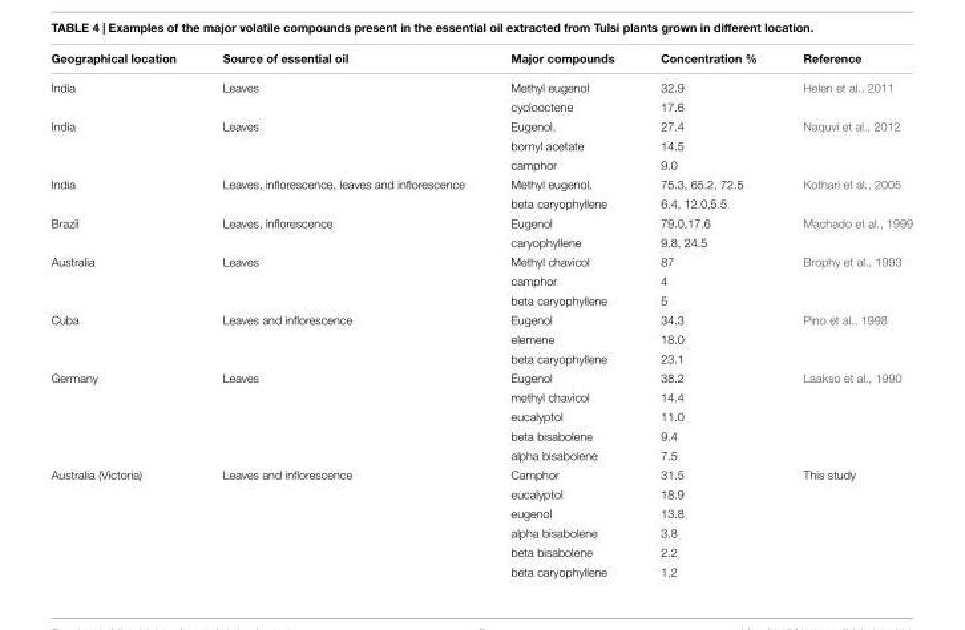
<table><thead><tr><td>Geographical location</td><td>Source of essential oil</td><td>Major compounds</td><td>Concentration %</td><td>Reference</td></tr></thead><tbody><tr><td rowspan="2">India</td><td>Leaves</td><td>Methyl eugenol</td><td>32.9</td><td>Helen et al., 2011</td></tr><tr><td></td><td>cyclooctene</td><td>17.6</td><td></td></tr><tr><td rowspan="3">India</td><td>Leaves</td><td>Eugenol,</td><td>27.4</td><td>Naquvi et al., 2012</td></tr><tr><td></td><td>bornyl acetate</td><td>14.5</td><td></td></tr><tr><td></td><td>camphor</td><td>9.0</td><td></td></tr><tr><td rowspan="2">India</td><td>Leaves, inflorescence, leaves and inflorescence</td><td>Methyl eugenol,</td><td>75.3, 65.2, 72.5</td><td>Kothari et al., 2005</td></tr><tr><td></td><td>beta caryophyllene</td><td>6.4, 12.0,5.5</td><td></td></tr><tr><td rowspan="2">Brazil</td><td>Leaves, inflorescence</td><td>Eugenol</td><td>79.0,17.6</td><td>Machado et al., 1999</td></tr><tr><td></td><td>caryophyllene</td><td>9.8, 24.5</td><td></td></tr><tr><td rowspan="3">Australia</td><td>Leaves</td><td>Methyl chavicol</td><td>87</td><td>Brophy et al., 1993</td></tr><tr><td></td><td>camphor</td><td>4</td><td></td></tr><tr><td></td><td>beta caryophyllene</td><td>5</td><td></td></tr><tr><td rowspan="3">Cuba</td><td>Leaves and inflorescence</td><td>Eugenol</td><td>34.3</td><td>Pino et al., 1998</td></tr><tr><td></td><td>elemene</td><td>18.0</td><td></td></tr><tr><td></td><td>beta caryophyllene</td><td>23.1</td><td></td></tr><tr><td rowspan="5">Germany</td><td>Leaves</td><td>Eugenol</td><td>38.2</td><td>Laakso et al., 1990</td></tr><tr><td></td><td>methyl chavicol</td><td>14.4</td><td></td></tr><tr><td></td><td>eucalyptol</td><td>11.0</td><td></td></tr><tr><td></td><td>beta bisabolene</td><td>9.4</td><td></td></tr><tr><td></td><td>alpha bisabolene</td><td>7.5</td><td></td></tr><tr><td rowspan="6">Australia (Victoria)</td><td>Leaves and inflorescence</td><td>Camphor</td><td>31.5</td><td>This study</td></tr><tr><td></td><td>eucalyptol</td><td>18.9</td><td></td></tr><tr><td></td><td>eugenol</td><td>13.8</td><td></td></tr><tr><td></td><td>alpha bisabolene</td><td>3.8</td><td></td></tr><tr><td></td><td>beta bisabolene</td><td>2.2</td><td></td></tr><tr><td></td><td>beta caryophyllene</td><td>1.2</td><td></td></tr></tbody></table>